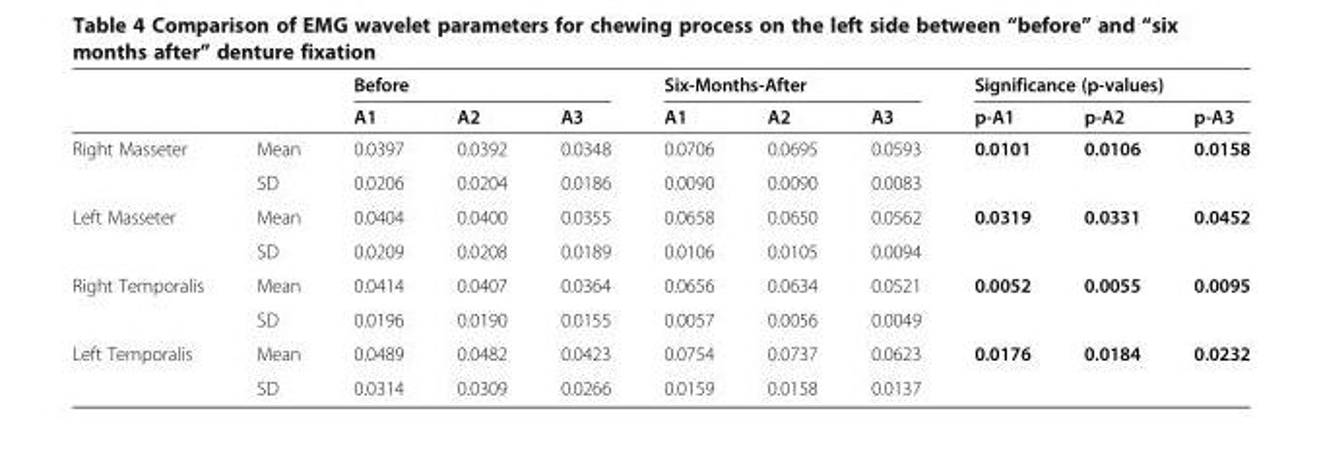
<table><thead><tr><td rowspan="2"></td><td rowspan="2"></td><td colspan="3">Before</td><td colspan="3">Six-Months-After</td><td colspan="3">Significance (p-values)</td></tr><tr><td>A1</td><td>A2</td><td>A3</td><td>A1</td><td>A2</td><td>A3</td><td>p-A1</td><td>p-A2</td><td>p-A3</td></tr></thead><tbody><tr><td rowspan="2">Right Masseter</td><td>Mean</td><td>0.0397</td><td>0.0392</td><td>0.0348</td><td>0.0706</td><td>0.0695</td><td>0.0593</td><td rowspan="2">0.0101</td><td rowspan="2">0.0106</td><td rowspan="2">0.0158</td></tr><tr><td>SD</td><td>0.0206</td><td>0.0204</td><td>0.0186</td><td>0.0090</td><td>0.0090</td><td>0.0083</td></tr><tr><td rowspan="2">Left Masseter</td><td>Mean</td><td>0.0404</td><td>0.0400</td><td>0.0355</td><td>0.0658</td><td>0.0650</td><td>0.0562</td><td rowspan="2">0.0319</td><td rowspan="2">0.0331</td><td rowspan="2">0.0452</td></tr><tr><td>SD</td><td>0.0209</td><td>0.0208</td><td>0.0189</td><td>0.0106</td><td>0.0105</td><td>0.0094</td></tr><tr><td rowspan="2">Right Temporalis</td><td>Mean</td><td>0.0414</td><td>0.0407</td><td>0.0364</td><td>0.0656</td><td>0.0634</td><td>0.0521</td><td rowspan="2">0.0052</td><td rowspan="2">0.0055</td><td rowspan="2">0.0095</td></tr><tr><td>SD</td><td>0.0196</td><td>0.0190</td><td>0.0155</td><td>0.0057</td><td>0.0056</td><td>0.0049</td></tr><tr><td rowspan="2">Left Temporalis</td><td>Mean</td><td>0.0489</td><td>0.0482</td><td>0.0423</td><td>0.0754</td><td>0.0737</td><td>0.0623</td><td>0.0176</td><td>0.0184</td><td>0.0232</td></tr><tr><td>SD</td><td>0.0314</td><td>0.0309</td><td>0.0266</td><td>0.0159</td><td>0.0158</td><td>0.0137</td><td></td><td></td><td></td></tr></tbody></table>